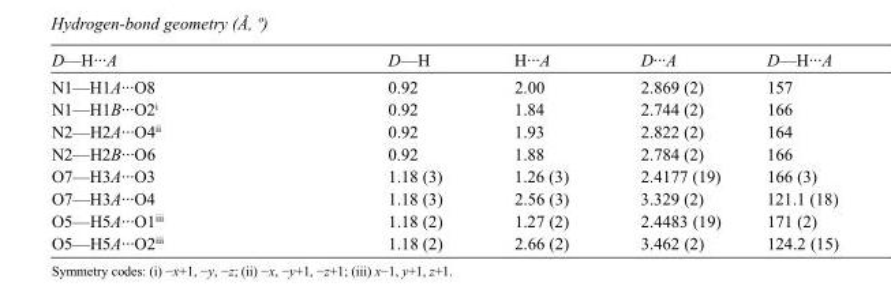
<table><tbody><tr><td>D—H···A</td><td>D—H</td><td>H···A</td><td>D···A</td><td>D—H···A</td></tr><tr><td>N1—H1A···O8</td><td>0.92</td><td>2.00</td><td>2.869 (2)</td><td>157</td></tr><tr><td>N1—H1B···O2<sup>i</sup></td><td>0.92</td><td>1.84</td><td>2.744 (2)</td><td>166</td></tr><tr><td>N2—H2A···O4<sup>ii</sup></td><td>0.92</td><td>1.93</td><td>2.822 (2)</td><td>164</td></tr><tr><td>N2—H2B···O6</td><td>0.92</td><td>1.88</td><td>2.784 (2)</td><td>166</td></tr><tr><td>O7—H3A···O3</td><td>1.18 (3)</td><td>1.26 (3)</td><td>2.4177 (19)</td><td>166 (3)</td></tr><tr><td>O7—H3A···O4</td><td>1.18 (3)</td><td>2.56 (3)</td><td>3.329 (2)</td><td>121.1 (18)</td></tr><tr><td>O5—H5A···O1<sup>iii</sup></td><td>1.18 (2)</td><td>1.27 (2)</td><td>2.4483 (19)</td><td>171 (2)</td></tr><tr><td>O5—H5A···O2<sup>iii</sup></td><td>1.18 (2)</td><td>2.66 (2)</td><td>3.462 (2)</td><td>124.2 (15)</td></tr></tbody></table>